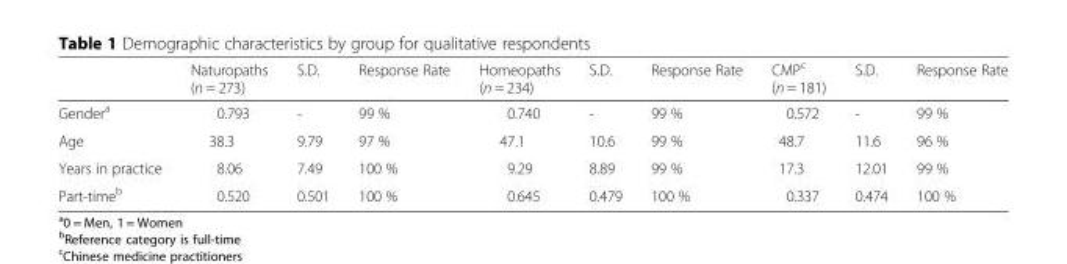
<table><thead><tr><td></td><td>Naturopaths (n = 273)</td><td>S.D.</td><td>Response Rate</td><td>Homeopaths (n = 234)</td><td>S.D.</td><td>Response Rate</td><td>CMP<sup>c</sup> (n = 181)</td><td>S.D.</td><td>Response Rate</td></tr></thead><tbody><tr><td>Gender<sup>a</sup></td><td>0.793</td><td>-</td><td>99 %</td><td>0.740</td><td>-</td><td>99 %</td><td>0.572</td><td>-</td><td>99 %</td></tr><tr><td>Age</td><td>38.3</td><td>9.79</td><td>97 %</td><td>47.1</td><td>10.6</td><td>99 %</td><td>48.7</td><td>11.6</td><td>96 %</td></tr><tr><td>Years in practice</td><td>8.06</td><td>7.49</td><td>100 %</td><td>9.29</td><td>8.89</td><td>99 %</td><td>17.3</td><td>12.01</td><td>99 %</td></tr><tr><td>Part-time<sup>b</sup></td><td>0.520</td><td>0.501</td><td>100 %</td><td>0.645</td><td>0.479</td><td>100 %</td><td>0.337</td><td>0.474</td><td>100 %</td></tr></tbody></table>